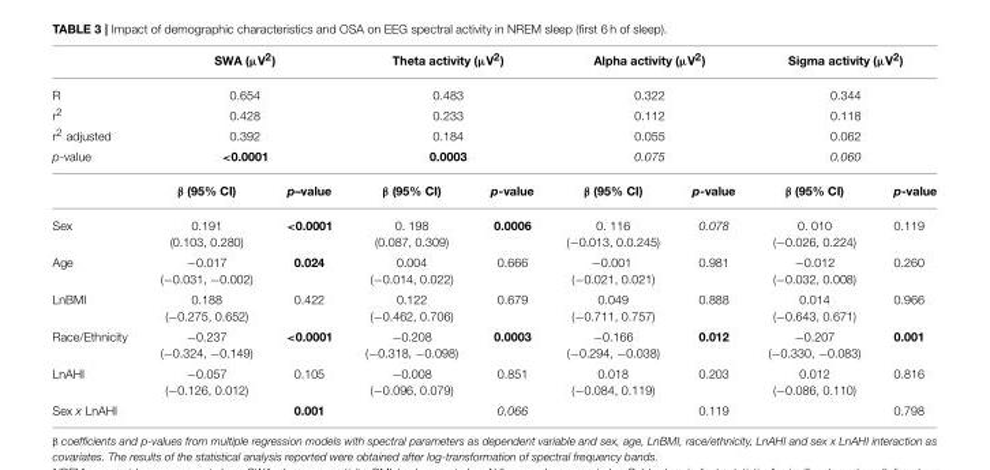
<table><thead><tr><td></td><td colspan="2">SWA (µV<sup>2</sup>)</td><td colspan="2">Theta activity (µV<sup>2</sup>)</td><td colspan="2">Alpha activity (µV<sup>2</sup>)</td><td colspan="2">Sigma activity (µV<sup>2</sup>)</td></tr></thead><tbody><tr><td>R</td><td colspan="2">0.654</td><td colspan="2">0.483</td><td colspan="2">0.322</td><td colspan="2">0.344</td></tr><tr><td>r<sup>2</sup></td><td colspan="2">0.428</td><td colspan="2">0.233</td><td colspan="2">0.112</td><td colspan="2">0.118</td></tr><tr><td>r<sup>2</sup> adjusted</td><td colspan="2">0.392</td><td colspan="2">0.184</td><td colspan="2">0.055</td><td colspan="2">0.062</td></tr><tr><td rowspan="2">p-value</td><td colspan="2">&lt;0.0001</td><td colspan="2">0.0003</td><td colspan="2">0.075</td><td colspan="2">0.060</td></tr><tr><td>β (95% CI)</td><td>p–value</td><td>β (95% CI)</td><td>p-value</td><td>β (95% CI)</td><td>p-value</td><td>β (95% CI)</td><td>p-value</td></tr><tr><td>Sex</td><td>0.191 (0.103, 0.280)</td><td>&lt;0.0001</td><td>0. 198 (0.087, 0.309)</td><td>0.0006</td><td>0. 116 (−0.013, 0.0.245)</td><td>0.078</td><td>0. 010 (−0.026, 0.224)</td><td>0.119</td></tr><tr><td>Age</td><td>−0.017 (−0.031, −0.002)</td><td>0.024</td><td>0.004 (−0.014, 0.022)</td><td>0.666</td><td>−0.001 (−0.021, 0.021)</td><td>0.981</td><td>−0.012 (−0.032, 0.008)</td><td>0.260</td></tr><tr><td>LnBMI</td><td>0.188 (−0.275, 0.652)</td><td>0.422</td><td>0.122 (−0.462, 0.706)</td><td>0.679</td><td>0.049 (−0.711, 0.757)</td><td>0.888</td><td>0.014 (−0.643, 0.671)</td><td>0.966</td></tr><tr><td>Race/Ethnicity</td><td>−0.237 (−0.324, −0.149)</td><td>&lt;0.0001</td><td>−0.208 (−0.318, −0.098)</td><td>0.0003</td><td>−0.166 (−0.294, −0.038)</td><td>0.012</td><td>−0.207 (−0.330, −0.083)</td><td>0.001</td></tr><tr><td>LnAHI</td><td>−0.057 (−0.126, 0.012)</td><td>0.105</td><td>−0.008 (−0.096, 0.079)</td><td>0.851</td><td>0.018 (−0.084, 0.119)</td><td>0.203</td><td>0.012 (−0.086, 0.110)</td><td>0.816</td></tr><tr><td>Sex x LnAHI</td><td></td><td>0.001</td><td></td><td>0.066</td><td></td><td>0.119</td><td></td><td>0.798</td></tr></tbody></table>